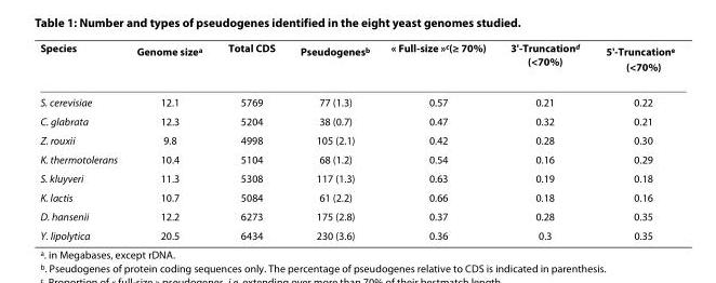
<table><thead><tr><td>Species</td><td>Genome size<sup>a</sup></td><td>Total CDS</td><td>Pseudogenes<sup>b</sup></td><td>« Full-size »<sup>c</sup>(≥ 70%)</td><td>3&#x27;-Truncation<sup>d</sup> (&lt;70%)</td><td>5&#x27;-Truncation<sup>e</sup> (&lt;70%)</td></tr></thead><tbody><tr><td>S. cerevisiae</td><td>12.1</td><td>5769</td><td>77 (1.3)</td><td>0.57</td><td>0.21</td><td>0.22</td></tr><tr><td>C. glabrata</td><td>12.3</td><td>5204</td><td>38 (0.7)</td><td>0.47</td><td>0.32</td><td>0.21</td></tr><tr><td>Z. rouxii</td><td>9.8</td><td>4998</td><td>105 (2.1)</td><td>0.42</td><td>0.28</td><td>0.30</td></tr><tr><td>K. thermotolerans</td><td>10.4</td><td>5104</td><td>68 (1.2)</td><td>0.54</td><td>0.16</td><td>0.29</td></tr><tr><td>S. kluyveri</td><td>11.3</td><td>5308</td><td>117 (1.3)</td><td>0.63</td><td>0.19</td><td>0.18</td></tr><tr><td>K. lactis</td><td>10.7</td><td>5084</td><td>61 (2.2)</td><td>0.66</td><td>0.18</td><td>0.16</td></tr><tr><td>D. hansenii</td><td>12.2</td><td>6273</td><td>175 (2.8)</td><td>0.37</td><td>0.28</td><td>0.35</td></tr><tr><td>Y. lipolytica</td><td>20.5</td><td>6434</td><td>230 (3.6)</td><td>0.36</td><td>0.3</td><td>0.35</td></tr></tbody></table>